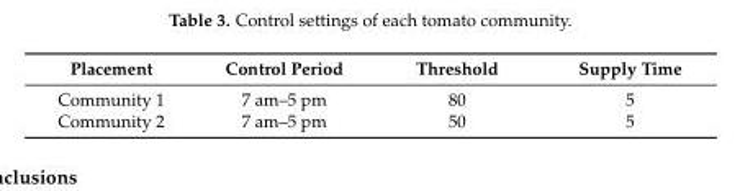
<table><thead><tr><td>Placement</td><td>Control Period</td><td>Threshold</td><td>Supply Time</td></tr></thead><tbody><tr><td>Community 1</td><td>7 am–5 pm</td><td>80</td><td>5</td></tr><tr><td>Community 2</td><td>7 am–5 pm</td><td>50</td><td>5</td></tr></tbody></table>